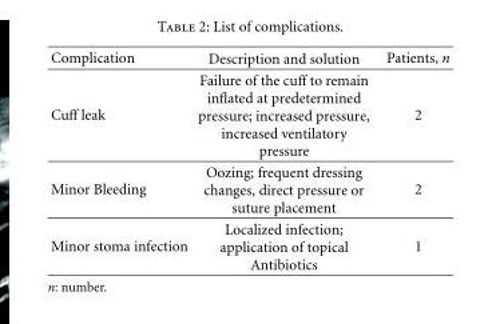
<table><thead><tr><td>Complication</td><td>Description and solution</td><td>Patients, n</td></tr></thead><tbody><tr><td>Cuff leak</td><td>Failure of the cuff to remain inflated at predetermined pressure; increased pressure, increased ventilatory pressure</td><td>2</td></tr><tr><td>Minor Bleeding</td><td>Oozing; frequent dressing changes, direct pressure or suture placement</td><td>2</td></tr><tr><td>Minor stoma infection</td><td>Localized infection; application of topical Antibiotics</td><td>1</td></tr></tbody></table>